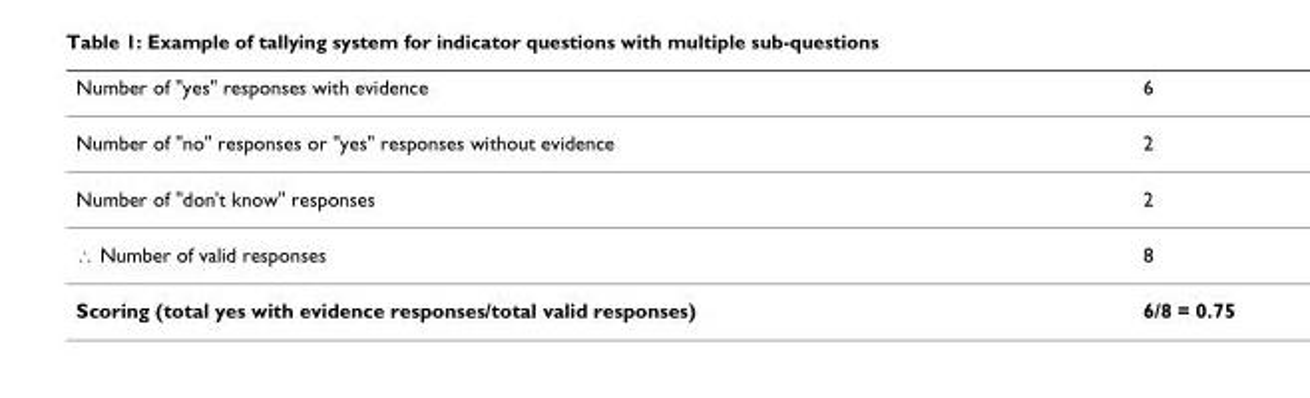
<table><thead><tr><td>Number of &quot;yes&quot; responses with evidence</td><td>6</td></tr></thead><tbody><tr><td>Number of &quot;no&quot; responses or &quot;yes&quot; responses without evidence</td><td>2</td></tr><tr><td>Number of &quot;don&#x27;t know&quot; responses</td><td>2</td></tr><tr><td>∴ Number of valid responses</td><td>8</td></tr><tr><td>Scoring (total yes with evidence responses/total valid responses)</td><td>6/8 = 0.75</td></tr></tbody></table>